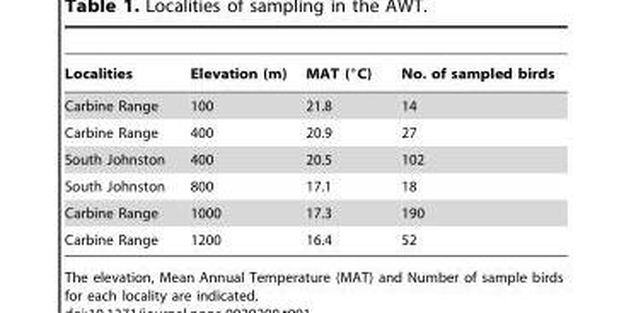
<table><thead><tr><td>Localities</td><td>Elevation (m)</td><td>MAT (°C)</td><td>No. of sampled birds</td></tr></thead><tbody><tr><td>Carbine Range</td><td>100</td><td>21.8</td><td>14</td></tr><tr><td>Carbine Range</td><td>400</td><td>20.9</td><td>27</td></tr><tr><td>South Johnston</td><td>400</td><td>20.5</td><td>102</td></tr><tr><td>South Johnston</td><td>800</td><td>17.1</td><td>18</td></tr><tr><td>Carbine Range</td><td>1000</td><td>17.3</td><td>190</td></tr><tr><td>Carbine Range</td><td>1200</td><td>16.4</td><td>52</td></tr></tbody></table>